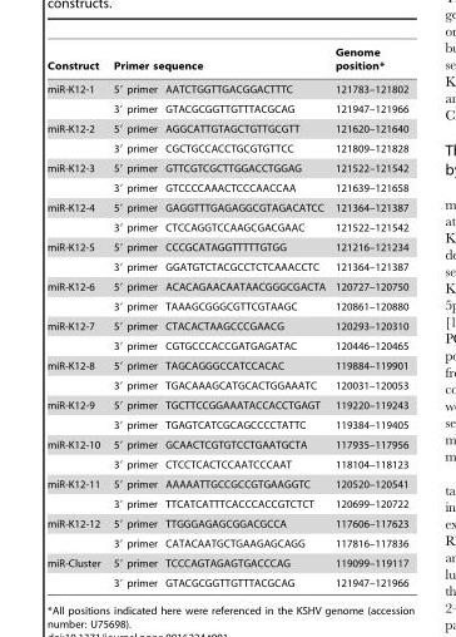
<table><thead><tr><td rowspan="2">Construct miR-K12-1</td><td colspan="2">Primer sequence</td><td rowspan="2">Genome position* 121783–121802</td></tr><tr><td>5′ primer</td><td>AATCTGGTTGACGGACTTTC</td></tr></thead><tbody><tr><td></td><td>3′ primer</td><td>GTACGCGGTTGTTTACGCAG</td><td>121947–121966</td></tr><tr><td rowspan="2">miR-K12-2</td><td>5′ primer</td><td>AGGCATTGTAGCTGTTGCGTT</td><td>121620–121640</td></tr><tr><td>3′ primer</td><td>CGCTGCCACCTGCGTGTTCC</td><td>121809–121828</td></tr><tr><td rowspan="2">miR-K12-3</td><td>5′ primer</td><td>GTTCGTCGCTTGGACCTGGAG</td><td>121522–121542</td></tr><tr><td>3′ primer</td><td>GTCCCCAAACTCCCAACCAA</td><td>121639–121658</td></tr><tr><td rowspan="2">miR-K12-4</td><td>5′ primer</td><td>GAGGTTTGAGAGGCGTAGACATCC</td><td>121364–121387</td></tr><tr><td>3′ primer</td><td>CTCCAGGTCCAAGCGACGAAC</td><td>121522–121542</td></tr><tr><td rowspan="2">miR-K12-5</td><td>5′ primer</td><td>CCCGCATAGGTTTTTGTGG</td><td>121216–121234</td></tr><tr><td>3′ primer</td><td>GGATGTCTACGCCTCTCAAACCTC</td><td>121364–121387</td></tr><tr><td rowspan="2">miR-K12-6</td><td>5′ primer</td><td>ACACAGAACAATAACGGGCGACTA</td><td>120727–120750</td></tr><tr><td>3′ primer</td><td>TAAAGCGGGCGTTCGTAAGC</td><td>120861–120880</td></tr><tr><td rowspan="2">miR-K12-7</td><td>5′ primer</td><td>CTACACTAAGCCCGAACG</td><td>120293–120310</td></tr><tr><td>3′ primer</td><td>CGTGCCCACCGATGAGATAC</td><td>120446–120465</td></tr><tr><td rowspan="2">miR-K12-8</td><td>5′ primer</td><td>TAGCAGGGCCATCCACAC</td><td>119884–119901</td></tr><tr><td>3′ primer</td><td>TGACAAAGCATGCACTGGAAATC</td><td>120031–120053</td></tr><tr><td rowspan="2">miR-K12-9</td><td>5′ primer</td><td>TGCTTCCGGAAATACCACCTGAGT</td><td>119220–119243</td></tr><tr><td>3′ primer</td><td>TGAGTCATCGCAGCCCCTATTC</td><td>119384–119405</td></tr><tr><td rowspan="2">miR-K12-10</td><td>5′ primer</td><td>GCAACTCGTGTCCTGAATGCTA</td><td>117935–117956</td></tr><tr><td>3′ primer</td><td>CTCCTCACTCCAATCCCAAT</td><td>118104–118123</td></tr><tr><td rowspan="2">miR-K12-11</td><td>5′ primer</td><td>AAAAATTGCCGCCGTGAAGGTC</td><td>120520–120541</td></tr><tr><td>3′ primer</td><td>TTCATCATTTCACCCACCGTCTCT</td><td>120699–120722</td></tr><tr><td rowspan="2">miR-K12-12</td><td>5′ primer</td><td>TTGGGAGAGCGGACGCCA</td><td>117606–117623</td></tr><tr><td>3′ primer</td><td>CATACAATGCTGAAGAGCAGG</td><td>117816–117836</td></tr><tr><td rowspan="2">miR-Cluster</td><td>5′ primer</td><td>TCCCAGTAGAGTGACCCAG</td><td>119099–119117</td></tr><tr><td>3′ primer</td><td>GTACGCGGTTGTTTACGCAG</td><td>121947–121966</td></tr></tbody></table>